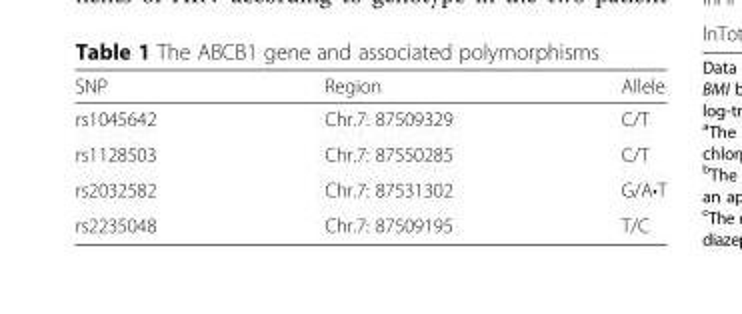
<table><thead><tr><td>SNP</td><td>Region</td><td>Allele</td></tr></thead><tbody><tr><td>rs1045642</td><td>Chr.7: 87509329</td><td>C/T</td></tr><tr><td>rs1128503</td><td>Chr.7: 87550285</td><td>C/T</td></tr><tr><td>rs2032582</td><td>Chr.7: 87531302</td><td>G/A•T</td></tr><tr><td>rs2235048</td><td>Chr.7: 87509195</td><td>T/C</td></tr></tbody></table>